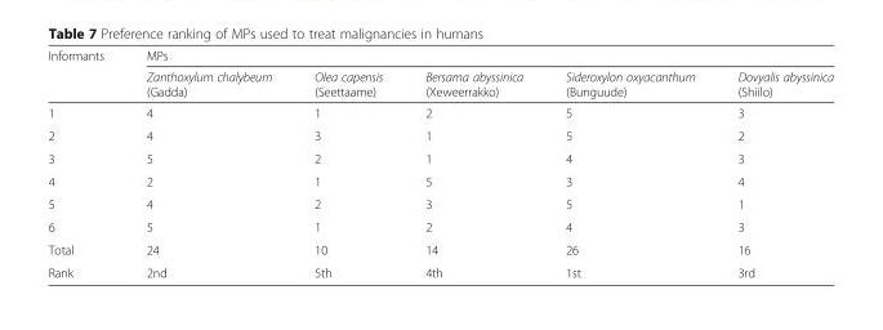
<table><thead><tr><td rowspan="2">Informants</td><td colspan="5">MPs</td></tr><tr><td>Zanthoxylum chalybeum (Gadda)</td><td>Olea capensis (Seettaame)</td><td>Bersama abyssinica (Xeweerrakko)</td><td>Sideroxylon oxyacanthum (Bunguude)</td><td>Dovyalis abyssinica (Shiilo)</td></tr></thead><tbody><tr><td>1</td><td>4</td><td>1</td><td>2</td><td>5</td><td>3</td></tr><tr><td>2</td><td>4</td><td>3</td><td>1</td><td>5</td><td>2</td></tr><tr><td>3</td><td>5</td><td>2</td><td>1</td><td>4</td><td>3</td></tr><tr><td>4</td><td>2</td><td>1</td><td>5</td><td>3</td><td>4</td></tr><tr><td>5</td><td>4</td><td>2</td><td>3</td><td>5</td><td>1</td></tr><tr><td>6</td><td>5</td><td>1</td><td>2</td><td>4</td><td>3</td></tr><tr><td>Total</td><td>24</td><td>10</td><td>14</td><td>26</td><td>16</td></tr><tr><td>Rank</td><td>2nd</td><td>5th</td><td>4th</td><td>1st</td><td>3rd</td></tr></tbody></table>